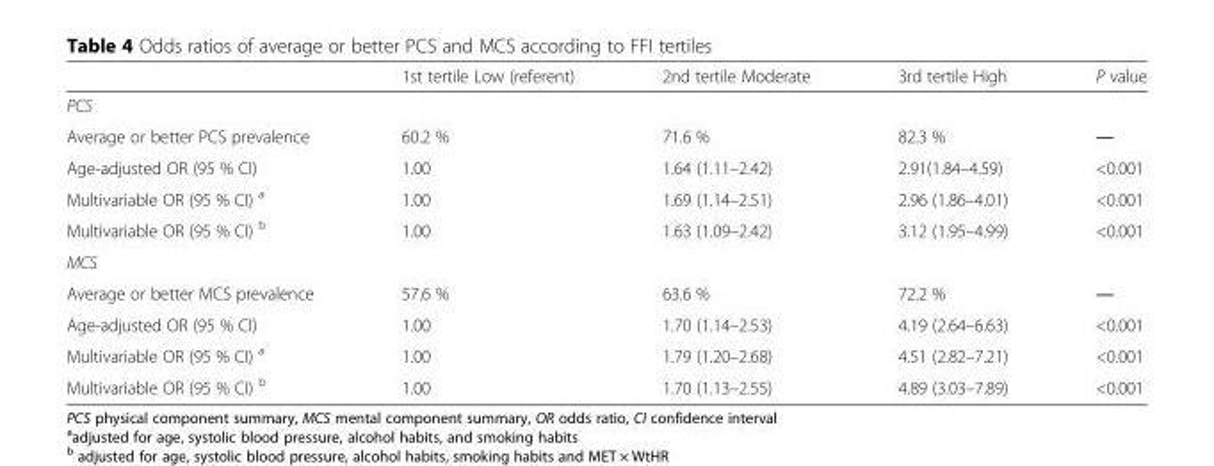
<table><thead><tr><td></td><td>1st tertile Low (referent)</td><td>2nd tertile Moderate</td><td>3rd tertile High</td><td>P value</td></tr></thead><tbody><tr><td colspan="5">PCS</td></tr><tr><td>Average or better PCS prevalence</td><td>60.2 %</td><td>71.6 %</td><td>82.3 %</td><td>―</td></tr><tr><td>Age-adjusted OR (95 % CI)</td><td>1.00</td><td>1.64 (1.11–2.42)</td><td>2.91(1.84–4.59)</td><td>&lt;0.001</td></tr><tr><td>Multivariable OR (95 % CI) <sup>a</sup></td><td>1.00</td><td>1.69 (1.14–2.51)</td><td>2.96 (1.86–4.01)</td><td>&lt;0.001</td></tr><tr><td>Multivariable OR (95 % CI) <sup>b</sup></td><td>1.00</td><td>1.63 (1.09–2.42)</td><td>3.12 (1.95–4.99)</td><td>&lt;0.001</td></tr><tr><td colspan="5">MCS</td></tr><tr><td>Average or better MCS prevalence</td><td>57.6 %</td><td>63.6 %</td><td>72.2 %</td><td>―</td></tr><tr><td>Age-adjusted OR (95 % CI)</td><td>1.00</td><td>1.70 (1.14–2.53)</td><td>4.19 (2.64–6.63)</td><td>&lt;0.001</td></tr><tr><td>Multivariable OR (95 % CI) <sup>a</sup></td><td>1.00</td><td>1.79 (1.20–2.68)</td><td>4.51 (2.82–7.21)</td><td>&lt;0.001</td></tr><tr><td>Multivariable OR (95 % CI) <sup>b</sup></td><td>1.00</td><td>1.70 (1.13–2.55)</td><td>4.89 (3.03–7.89)</td><td>&lt;0.001</td></tr></tbody></table>